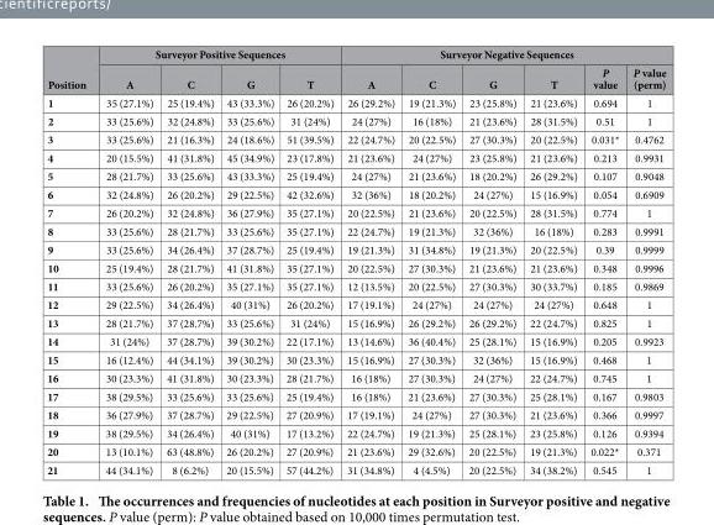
<table><thead><tr><td rowspan="2">Position</td><td colspan="4">Surveyor Positive Sequences</td><td colspan="6">Surveyor Negative Sequences</td></tr><tr><td>A</td><td>C</td><td>G</td><td>T</td><td>A</td><td>C</td><td>G</td><td>T</td><td>P value</td><td>P value (perm)</td></tr></thead><tbody><tr><td>1</td><td>35 (27.1%)</td><td>25 (19.4%)</td><td>43 (33.3%)</td><td>26 (20.2%)</td><td>26 (29.2%)</td><td>19 (21.3%)</td><td>23 (25.8%)</td><td>21 (23.6%)</td><td>0.694</td><td>1</td></tr><tr><td>2</td><td>33 (25.6%)</td><td>32 (24.8%)</td><td>33 (25.6%)</td><td>31 (24%)</td><td>24 (27%)</td><td>16 (18%)</td><td>21 (23.6%)</td><td>28 (31.5%)</td><td>0.51</td><td>1</td></tr><tr><td>3</td><td>33 (25.6%)</td><td>21 (16.3%)</td><td>24 (18.6%)</td><td>51 (39.5%)</td><td>22 (24.7%)</td><td>20 (22.5%)</td><td>27 (30.3%)</td><td>20 (22.5%)</td><td>0.031*</td><td>0.4762</td></tr><tr><td>4</td><td>20 (15.5%)</td><td>41 (31.8%)</td><td>45 (34.9%)</td><td>23 (17.8%)</td><td>21 (23.6%)</td><td>24 (27%)</td><td>23 (25.8%)</td><td>21 (23.6%)</td><td>0.213</td><td>0.9931</td></tr><tr><td>5</td><td>28 (21.7%)</td><td>33 (25.6%)</td><td>43 (33.3%)</td><td>25 (19.4%)</td><td>24 (27%)</td><td>21 (23.6%)</td><td>18 (20.2%)</td><td>26 (29.2%)</td><td>0.107</td><td>0.9048</td></tr><tr><td>6</td><td>32 (24.8%)</td><td>26 (20.2%)</td><td>29 (22.5%)</td><td>42 (32.6%)</td><td>32 (36%)</td><td>18 (20.2%)</td><td>24 (27%)</td><td>15 (16.9%)</td><td>0.054</td><td>0.6909</td></tr><tr><td>7</td><td>26 (20.2%)</td><td>32 (24.8%)</td><td>36 (27.9%)</td><td>35 (27.1%)</td><td>20 (22.5%)</td><td>21 (23.6%)</td><td>20 (22.5%)</td><td>28 (31.5%)</td><td>0.774</td><td>1</td></tr><tr><td>8</td><td>33 (25.6%)</td><td>28 (21.7%)</td><td>33 (25.6%)</td><td>35 (27.1%)</td><td>22 (24.7%)</td><td>19 (21.3%)</td><td>32 (36%)</td><td>16 (18%)</td><td>0.283</td><td>0.9991</td></tr><tr><td>9</td><td>33 (25.6%)</td><td>34 (26.4%)</td><td>37 (28.7%)</td><td>25 (19.4%)</td><td>19 (21.3%)</td><td>31 (34.8%)</td><td>19 (21.3%)</td><td>20 (22.5%)</td><td>0.39</td><td>0.9999</td></tr><tr><td>10</td><td>25 (19.4%)</td><td>28 (21.7%)</td><td>41 (31.8%)</td><td>35 (27.1%)</td><td>20 (22.5%)</td><td>27 (30.3%)</td><td>21 (23.6%)</td><td>21 (23.6%)</td><td>0.348</td><td>0.9996</td></tr><tr><td>11</td><td>33 (25.6%)</td><td>26 (20.2%)</td><td>35 (27.1%)</td><td>35 (27.1%)</td><td>12 (13.5%)</td><td>20 (22.5%)</td><td>27 (30.3%)</td><td>30 (33.7%)</td><td>0.185</td><td>0.9869</td></tr><tr><td>12</td><td>29 (22.5%)</td><td>34 (26.4%)</td><td>40 (31%)</td><td>26 (20.2%)</td><td>17 (19.1%)</td><td>24 (27%)</td><td>24 (27%)</td><td>24 (27%)</td><td>0.648</td><td>1</td></tr><tr><td>13</td><td>28 (21.7%)</td><td>37 (28.7%)</td><td>33 (25.6%)</td><td>31 (24%)</td><td>15 (16.9%)</td><td>26 (29.2%)</td><td>26 (29.2%)</td><td>22 (24.7%)</td><td>0.825</td><td>1</td></tr><tr><td>14</td><td>31 (24%)</td><td>37 (28.7%)</td><td>39 (30.2%)</td><td>22 (17.1%)</td><td>13 (14.6%)</td><td>36 (40.4%)</td><td>25 (28.1%)</td><td>15 (16.9%)</td><td>0.205</td><td>0.9923</td></tr><tr><td>15</td><td>16 (12.4%)</td><td>44 (34.1%)</td><td>39 (30.2%)</td><td>30 (23.3%)</td><td>15 (16.9%)</td><td>27 (30.3%)</td><td>32 (36%)</td><td>15 (16.9%)</td><td>0.468</td><td>1</td></tr><tr><td>16</td><td>30 (23.3%)</td><td>41 (31.8%)</td><td>30 (23.3%)</td><td>28 (21.7%)</td><td>16 (18%)</td><td>27 (30.3%)</td><td>24 (27%)</td><td>22 (24.7%)</td><td>0.745</td><td>1</td></tr><tr><td>17</td><td>38 (29.5%)</td><td>33 (25.6%)</td><td>33 (25.6%)</td><td>25 (19.4%)</td><td>16 (18%)</td><td>21 (23.6%)</td><td>27 (30.3%)</td><td>25 (28.1%)</td><td>0.167</td><td>0.9803</td></tr><tr><td>18</td><td>36 (27.9%)</td><td>37 (28.7%)</td><td>29 (22.5%)</td><td>27 (20.9%)</td><td>17 (19.1%)</td><td>24 (27%)</td><td>27 (30.3%)</td><td>21 (23.6%)</td><td>0.366</td><td>0.9997</td></tr><tr><td>19</td><td>38 (29.5%)</td><td>34 (26.4%)</td><td>40 (31%)</td><td>17 (13.2%)</td><td>22 (24.7%)</td><td>19 (21.3%)</td><td>25 (28.1%)</td><td>23 (25.8%)</td><td>0.126</td><td>0.9394</td></tr><tr><td>20</td><td>13 (10.1%)</td><td>63 (48.8%)</td><td>26 (20.2%)</td><td>27 (20.9%)</td><td>21 (23.6%)</td><td>29 (32.6%)</td><td>20 (22.5%)</td><td>19 (21.3%)</td><td>0.022*</td><td>0.371</td></tr><tr><td>21</td><td>44 (34.1%)</td><td>8 (6.2%)</td><td>20 (15.5%)</td><td>57 (44.2%)</td><td>31 (34.8%)</td><td>4 (4.5%)</td><td>20 (22.5%)</td><td>34 (38.2%)</td><td>0.545</td><td>1</td></tr></tbody></table>